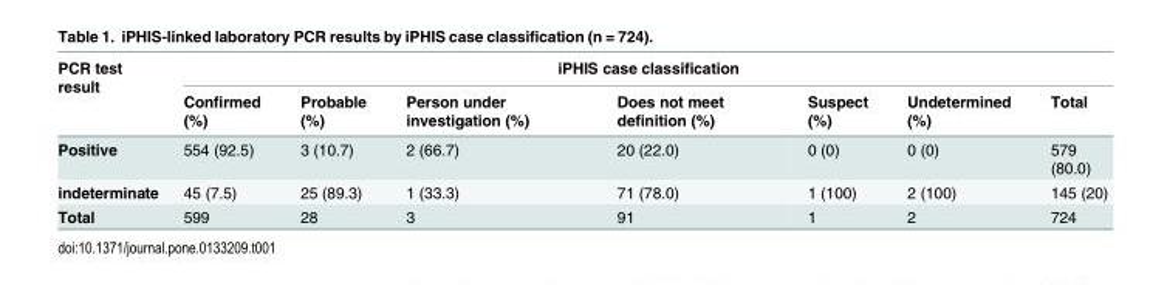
<table><thead><tr><td rowspan="2">PCR test result</td><td colspan="7">iPHIS case classification</td></tr><tr><td>Confirmed (%)</td><td>Probable (%)</td><td>Person under investigation (%)</td><td>Does not meet definition (%)</td><td>Suspect (%)</td><td>Undetermined (%)</td><td>Total</td></tr></thead><tbody><tr><td>Positive</td><td>554 (92.5)</td><td>3 (10.7)</td><td>2 (66.7)</td><td>20 (22.0)</td><td>0 (0)</td><td>0 (0)</td><td>579 (80.0)</td></tr><tr><td>indeterminate</td><td>45 (7.5)</td><td>25 (89.3)</td><td>1 (33.3)</td><td>71 (78.0)</td><td>1 (100)</td><td>2 (100)</td><td>145 (20)</td></tr><tr><td>Total</td><td>599</td><td>28</td><td>3</td><td>91</td><td>1</td><td>2</td><td>724</td></tr></tbody></table>